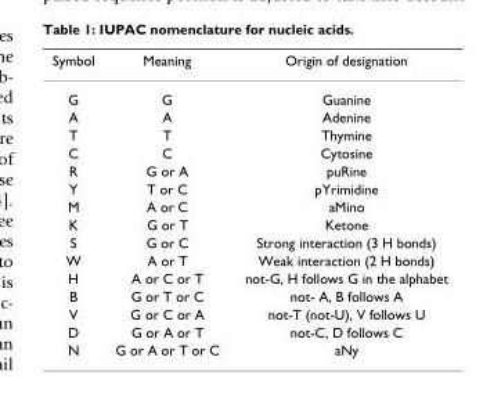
<table><thead><tr><td>Symbol</td><td>Meaning</td><td>Origin of designation</td></tr></thead><tbody><tr><td>G</td><td>G</td><td>Guanine</td></tr><tr><td>A</td><td>A</td><td>Adenine</td></tr><tr><td>T</td><td>T</td><td>Thymine</td></tr><tr><td>C</td><td>C</td><td>Cytosine</td></tr><tr><td>R</td><td>G or A</td><td>puRine</td></tr><tr><td>Y</td><td>T or C</td><td>pYrimidine</td></tr><tr><td>M</td><td>A or C</td><td>aMino</td></tr><tr><td>K</td><td>G or T</td><td>Ketone</td></tr><tr><td>S</td><td>G or C</td><td>Strong interaction (3 H bonds)</td></tr><tr><td>W</td><td>A or T</td><td>Weak interaction (2 H bonds)</td></tr><tr><td>H</td><td>A or C or T</td><td>not-G, H follows G in the alphabet</td></tr><tr><td>B</td><td>G or T or C</td><td>not- A, B follows A</td></tr><tr><td>V</td><td>G or C or A</td><td>not-T (not-U), V follows U</td></tr><tr><td>D</td><td>G or A or T</td><td>not-C, D follows C</td></tr><tr><td>N</td><td>G or A or T or C</td><td>aNy</td></tr></tbody></table>